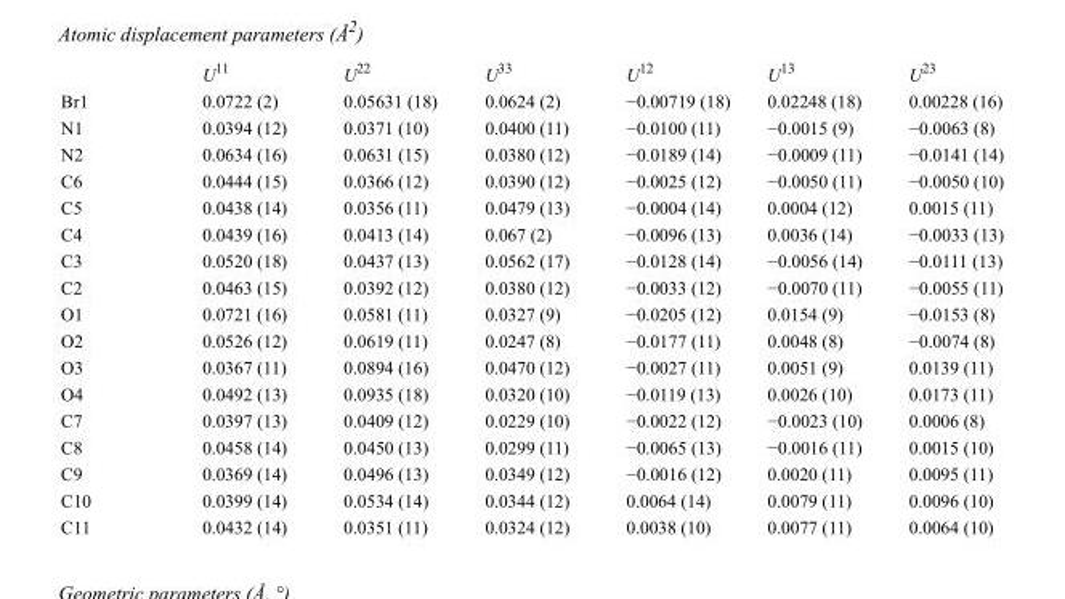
<table><thead><tr><td></td><td>U<sup>11</sup></td><td>U<sup>22</sup></td><td>U<sup>33</sup></td><td>U<sup>12</sup></td><td>U<sup>13</sup></td><td>U<sup>23</sup></td></tr></thead><tbody><tr><td>Br1</td><td>0.0722 (2)</td><td>0.05631 (18)</td><td>0.0624 (2)</td><td>−0.00719 (18)</td><td>0.02248 (18)</td><td>0.00228 (16)</td></tr><tr><td>N1</td><td>0.0394 (12)</td><td>0.0371 (10)</td><td>0.0400 (11)</td><td>−0.0100 (11)</td><td>−0.0015 (9)</td><td>−0.0063 (8)</td></tr><tr><td>N2</td><td>0.0634 (16)</td><td>0.0631 (15)</td><td>0.0380 (12)</td><td>−0.0189 (14)</td><td>−0.0009 (11)</td><td>−0.0141 (14)</td></tr><tr><td>C6</td><td>0.0444 (15)</td><td>0.0366 (12)</td><td>0.0390 (12)</td><td>−0.0025 (12)</td><td>−0.0050 (11)</td><td>−0.0050 (10)</td></tr><tr><td>C5</td><td>0.0438 (14)</td><td>0.0356 (11)</td><td>0.0479 (13)</td><td>−0.0004 (14)</td><td>0.0004 (12)</td><td>0.0015 (11)</td></tr><tr><td>C4</td><td>0.0439 (16)</td><td>0.0413 (14)</td><td>0.067 (2)</td><td>−0.0096 (13)</td><td>0.0036 (14)</td><td>−0.0033 (13)</td></tr><tr><td>C3</td><td>0.0520 (18)</td><td>0.0437 (13)</td><td>0.0562 (17)</td><td>−0.0128 (14)</td><td>−0.0056 (14)</td><td>−0.0111 (13)</td></tr><tr><td>C2</td><td>0.0463 (15)</td><td>0.0392 (12)</td><td>0.0380 (12)</td><td>−0.0033 (12)</td><td>−0.0070 (11)</td><td>−0.0055 (11)</td></tr><tr><td>O1</td><td>0.0721 (16)</td><td>0.0581 (11)</td><td>0.0327 (9)</td><td>−0.0205 (12)</td><td>0.0154 (9)</td><td>−0.0153 (8)</td></tr><tr><td>O2</td><td>0.0526 (12)</td><td>0.0619 (11)</td><td>0.0247 (8)</td><td>−0.0177 (11)</td><td>0.0048 (8)</td><td>−0.0074 (8)</td></tr><tr><td>O3</td><td>0.0367 (11)</td><td>0.0894 (16)</td><td>0.0470 (12)</td><td>−0.0027 (11)</td><td>0.0051 (9)</td><td>0.0139 (11)</td></tr><tr><td>O4</td><td>0.0492 (13)</td><td>0.0935 (18)</td><td>0.0320 (10)</td><td>−0.0119 (13)</td><td>0.0026 (10)</td><td>0.0173 (11)</td></tr><tr><td>C7</td><td>0.0397 (13)</td><td>0.0409 (12)</td><td>0.0229 (10)</td><td>−0.0022 (12)</td><td>−0.0023 (10)</td><td>0.0006 (8)</td></tr><tr><td>C8</td><td>0.0458 (14)</td><td>0.0450 (13)</td><td>0.0299 (11)</td><td>−0.0065 (13)</td><td>−0.0016 (11)</td><td>0.0015 (10)</td></tr><tr><td>C9</td><td>0.0369 (14)</td><td>0.0496 (13)</td><td>0.0349 (12)</td><td>−0.0016 (12)</td><td>0.0020 (11)</td><td>0.0095 (11)</td></tr><tr><td>C10</td><td>0.0399 (14)</td><td>0.0534 (14)</td><td>0.0344 (12)</td><td>0.0064 (14)</td><td>0.0079 (11)</td><td>0.0096 (10)</td></tr><tr><td>C11</td><td>0.0432 (14)</td><td>0.0351 (11)</td><td>0.0324 (12)</td><td>0.0038 (10)</td><td>0.0077 (11)</td><td>0.0064 (10)</td></tr></tbody></table>